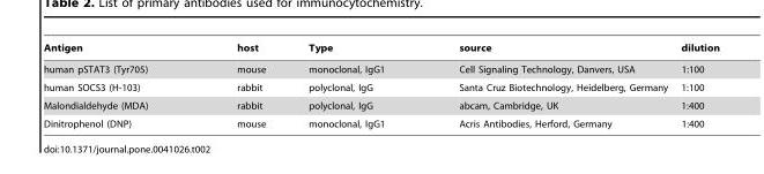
<table><thead><tr><td>Antigen</td><td>host</td><td>Type</td><td>source</td><td>dilution</td></tr></thead><tbody><tr><td>human pSTAT3 (Tyr705)</td><td>mouse</td><td>monoclonal, IgG1</td><td>Cell Signaling Technology, Danvers, USA</td><td>1:100</td></tr><tr><td>human SOCS3 (H-103)</td><td>rabbit</td><td>polyclonal, IgG</td><td>Santa Cruz Biotechnology, Heidelberg, Germany</td><td>1:100</td></tr><tr><td>Malondialdehyde (MDA)</td><td>rabbit</td><td>polyclonal, IgG</td><td>abcam, Cambridge, UK</td><td>1:400</td></tr><tr><td>Dinitrophenol (DNP)</td><td>mouse</td><td>monoclonal, IgG1</td><td>Acris Antibodies, Herford, Germany</td><td>1:400</td></tr></tbody></table>